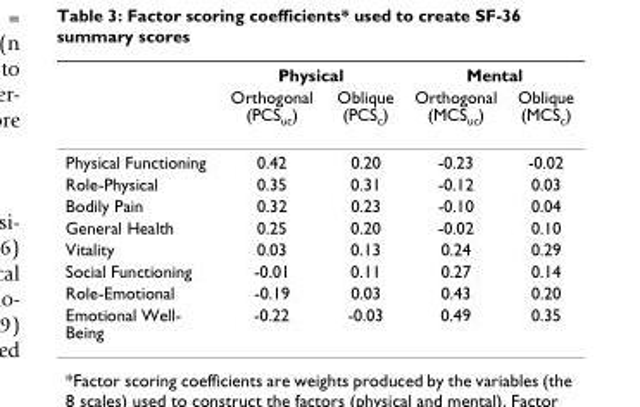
<table><thead><tr><td rowspan="2"></td><td colspan="2">Physical</td><td colspan="2">Mental</td></tr><tr><td>Orthogonal (PCS<sub>uc</sub>)</td><td>Oblique (PCS<sub>c</sub>)</td><td>Orthogonal (MCS<sub>uc</sub>)</td><td>Oblique (MCS<sub>c</sub>)</td></tr></thead><tbody><tr><td>Physical Functioning</td><td>0.42</td><td>0.20</td><td>-0.23</td><td>-0.02</td></tr><tr><td>Role-Physical</td><td>0.35</td><td>0.31</td><td>-0.12</td><td>0.03</td></tr><tr><td>Bodily Pain</td><td>0.32</td><td>0.23</td><td>-0.10</td><td>0.04</td></tr><tr><td>General Health</td><td>0.25</td><td>0.20</td><td>-0.02</td><td>0.10</td></tr><tr><td>Vitality</td><td>0.03</td><td>0.13</td><td>0.24</td><td>0.29</td></tr><tr><td>Social Functioning</td><td>-0.01</td><td>0.11</td><td>0.27</td><td>0.14</td></tr><tr><td>Role-Emotional</td><td>-0.19</td><td>0.03</td><td>0.43</td><td>0.20</td></tr><tr><td>Emotional Well- Being</td><td>-0.22</td><td>-0.03</td><td>0.49</td><td>0.35</td></tr></tbody></table>